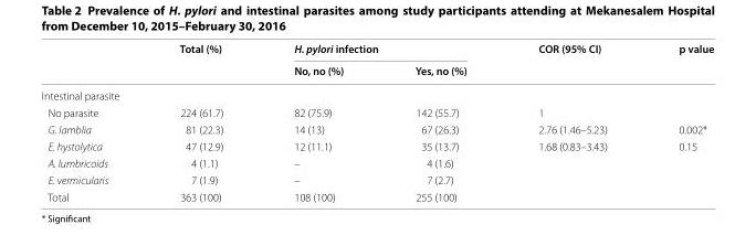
<table><thead><tr><td rowspan="2"></td><td rowspan="2">Total (%)</td><td colspan="2">H. pylori infection</td><td rowspan="2">COR (95% CI)</td><td rowspan="2">p value</td></tr><tr><td>No, no (%)</td><td>Yes, no (%)</td></tr></thead><tbody><tr><td colspan="6">Intestinal parasite</td></tr><tr><td>No parasite</td><td>224 (61.7)</td><td>82 (75.9)</td><td>142 (55.7)</td><td>1</td><td></td></tr><tr><td>G. lamblia</td><td>81 (22.3)</td><td>14 (13)</td><td>67 (26.3)</td><td>2.76 (1.46–5.23)</td><td>0.002*</td></tr><tr><td>E. hystolytica</td><td>47 (12.9)</td><td>12 (11.1)</td><td>35 (13.7)</td><td>1.68 (0.83–3.43)</td><td>0.15</td></tr><tr><td>A. lumbricoids</td><td>4 (1.1)</td><td>–</td><td>4 (1.6)</td><td></td><td></td></tr><tr><td>E. vermicularis</td><td>7 (1.9)</td><td>–</td><td>7 (2.7)</td><td></td><td></td></tr><tr><td>Total</td><td>363 (100)</td><td>108 (100)</td><td>255 (100)</td><td></td><td></td></tr></tbody></table>